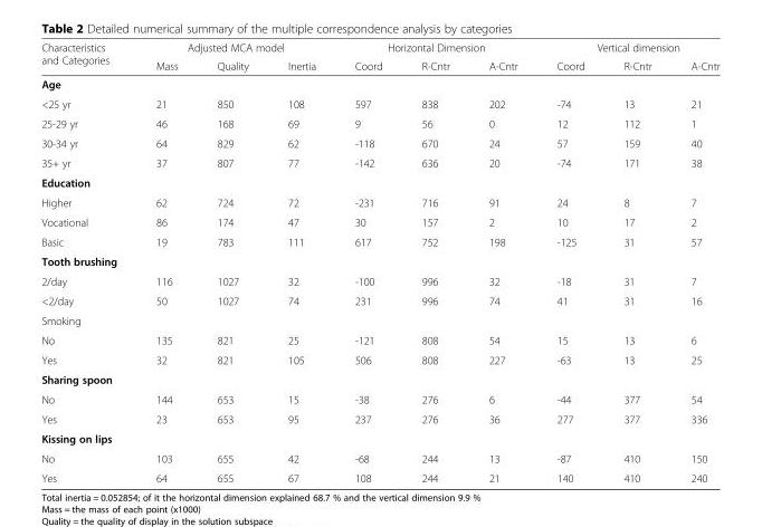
<table><thead><tr><td rowspan="2">Characteristics and Categories</td><td colspan="3">Adjusted MCA model</td><td colspan="3">Horizontal Dimension</td><td colspan="3">Vertical dimension</td></tr><tr><td>Mass</td><td>Quality</td><td>Inertia</td><td>Coord</td><td>R-Cntr</td><td>A-Cntr</td><td>Coord</td><td>R-Cntr</td><td>A-Cntr</td></tr></thead><tbody><tr><td colspan="10">Age</td></tr><tr><td>&lt;25 yr</td><td>21</td><td>850</td><td>108</td><td>597</td><td>838</td><td>202</td><td>-74</td><td>13</td><td>21</td></tr><tr><td>25-29 yr</td><td>46</td><td>168</td><td>69</td><td>9</td><td>56</td><td>0</td><td>12</td><td>112</td><td>1</td></tr><tr><td>30-34 yr</td><td>64</td><td>829</td><td>62</td><td>-118</td><td>670</td><td>24</td><td>57</td><td>159</td><td>40</td></tr><tr><td>35+ yr</td><td>37</td><td>807</td><td>77</td><td>-142</td><td>636</td><td>20</td><td>-74</td><td>171</td><td>38</td></tr><tr><td colspan="10">Education</td></tr><tr><td>Higher</td><td>62</td><td>724</td><td>72</td><td>-231</td><td>716</td><td>91</td><td>24</td><td>8</td><td>7</td></tr><tr><td>Vocational</td><td>86</td><td>174</td><td>47</td><td>30</td><td>157</td><td>2</td><td>10</td><td>17</td><td>2</td></tr><tr><td>Basic</td><td>19</td><td>783</td><td>111</td><td>617</td><td>752</td><td>198</td><td>-125</td><td>31</td><td>57</td></tr><tr><td colspan="10">Tooth brushing</td></tr><tr><td>2/day</td><td>116</td><td>1027</td><td>32</td><td>-100</td><td>996</td><td>32</td><td>-18</td><td>31</td><td>7</td></tr><tr><td>&lt;2/day</td><td>50</td><td>1027</td><td>74</td><td>231</td><td>996</td><td>74</td><td>41</td><td>31</td><td>16</td></tr><tr><td colspan="10">Smoking</td></tr><tr><td>No</td><td>135</td><td>821</td><td>25</td><td>-121</td><td>808</td><td>54</td><td>15</td><td>13</td><td>6</td></tr><tr><td>Yes</td><td>32</td><td>821</td><td>105</td><td>506</td><td>808</td><td>227</td><td>-63</td><td>13</td><td>25</td></tr><tr><td colspan="10">Sharing spoon</td></tr><tr><td>No</td><td>144</td><td>653</td><td>15</td><td>-38</td><td>276</td><td>6</td><td>-44</td><td>377</td><td>54</td></tr><tr><td>Yes</td><td>23</td><td>653</td><td>95</td><td>237</td><td>276</td><td>36</td><td>277</td><td>377</td><td>336</td></tr><tr><td colspan="10">Kissing on lips</td></tr><tr><td>No</td><td>103</td><td>655</td><td>42</td><td>-68</td><td>244</td><td>13</td><td>-87</td><td>410</td><td>150</td></tr><tr><td>Yes</td><td>64</td><td>655</td><td>67</td><td>108</td><td>244</td><td>21</td><td>140</td><td>410</td><td>240</td></tr></tbody></table>